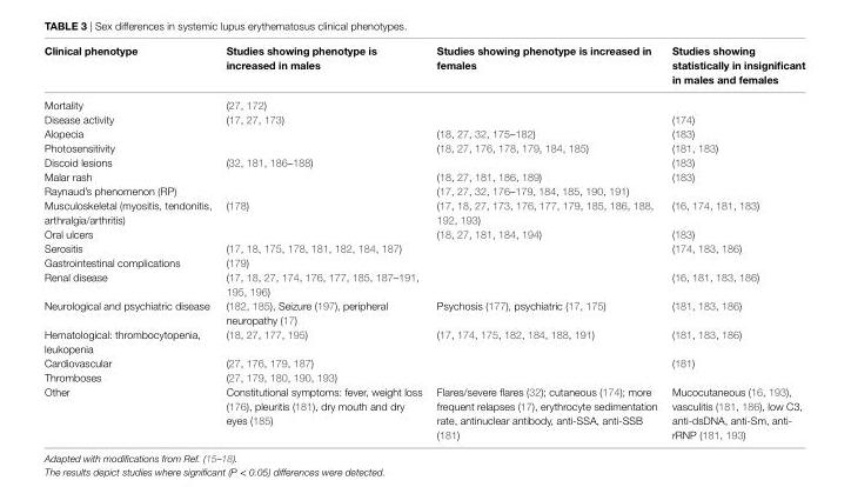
<table><thead><tr><td>clinical phenotype</td><td>Studies showing phenotype is increased in males</td><td>Studies showing phenotype is increased in females</td><td>Studies showing statistically in insignificant in males and females</td></tr></thead><tbody><tr><td>Mortality</td><td>(27, 172)</td><td></td><td></td></tr><tr><td>Disease activity</td><td>(17, 27, 173)</td><td></td><td>(174)</td></tr><tr><td>Alopecia</td><td></td><td>(18, 27, 32, 175–182)</td><td>(183)</td></tr><tr><td>Photosensitivity</td><td></td><td>(18, 27, 176, 178, 179, 184, 185)</td><td>(181, 183)</td></tr><tr><td>Discoid lesions</td><td>(32, 181, 186–188)</td><td></td><td>(183)</td></tr><tr><td>Malar rash</td><td></td><td>(18, 27, 181, 186, 189)</td><td>(183)</td></tr><tr><td>Raynaud’s phenomenon (RP)</td><td></td><td>(17, 27, 32, 176–179, 184, 185, 190, 191)</td><td></td></tr><tr><td>Musculoskeletal (myositis, tendonitis, arthralgia/arthritis)</td><td>(178)</td><td>(17, 18, 27, 173, 176, 177, 179, 185, 186, 188, 192, 193)</td><td>(16, 174, 181, 183)</td></tr><tr><td>Oral ulcers</td><td></td><td>(18, 27, 181, 184, 194)</td><td>(183)</td></tr><tr><td>Serositis</td><td>(17, 18, 175, 178, 181, 182, 184, 187)</td><td></td><td>(174, 183, 186)</td></tr><tr><td>Gastrointestinal complications</td><td>(179)</td><td></td><td></td></tr><tr><td>Renal disease</td><td>(17, 18, 27, 174, 176, 177, 185, 187–191, 195, 196)</td><td></td><td>(16, 181, 183, 186)</td></tr><tr><td>Neurological and psychiatric disease</td><td>(182, 185), Seizure (197), peripheral neuropathy (17)</td><td>Psychosis (177), psychiatric (17, 175)</td><td>(181, 183, 186)</td></tr><tr><td>Hematological: thrombocytopenia, leukopenia</td><td>(18, 27, 177, 195)</td><td>(17, 174, 175, 182, 184, 188, 191)</td><td>(181, 183, 186)</td></tr><tr><td>Cardiovascular</td><td>(27, 176, 179, 187)</td><td></td><td>(181)</td></tr><tr><td>Thromboses</td><td>(27, 179, 180, 190, 193)</td><td></td><td></td></tr><tr><td>Other</td><td>Constitutional symptoms: fever, weight loss (176), pleuritis (181), dry mouth and dry eyes (185)</td><td>Flares/severe flares (32); cutaneous (174); more frequent relapses (17), erythrocyte sedimentation rate, antinuclear antibody, anti-SSA, anti-SSB (181)</td><td>Mucocutaneous (16, 193), vasculitis (181, 186), low C3, anti-dsDNA, anti-Sm, anti- rRNP (181, 193)</td></tr></tbody></table>